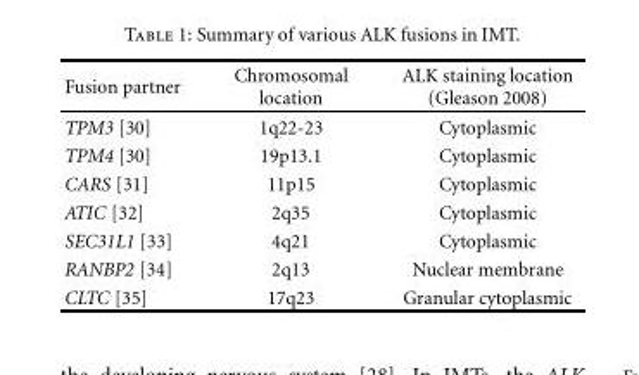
<table><thead><tr><td>Fusion partner</td><td>Chromosomal location</td><td>ALK staining location (Gleason 2008)</td></tr></thead><tbody><tr><td>TPM3 [30]</td><td>1q22-23</td><td>Cytoplasmic</td></tr><tr><td>TPM4 [30]</td><td>19p13.1</td><td>Cytoplasmic</td></tr><tr><td>CARS [31]</td><td>11p15</td><td>Cytoplasmic</td></tr><tr><td>ATIC [32]</td><td>2q35</td><td>Cytoplasmic</td></tr><tr><td>SEC31L1 [33]</td><td>4q21</td><td>Cytoplasmic</td></tr><tr><td>RANBP2 [34]</td><td>2q13</td><td>Nuclear membrane</td></tr><tr><td>CLTC [35]</td><td>17q23</td><td>Granular cytoplasmic</td></tr></tbody></table>